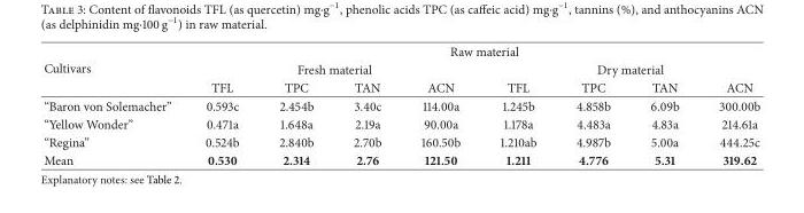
<table><thead><tr><td rowspan="3">Cultivars</td><td colspan="8">Raw material</td></tr><tr><td colspan="4">Fresh material</td><td colspan="4">Dry material</td></tr><tr><td>TFL</td><td>TPC</td><td>TAN</td><td>ACN</td><td>TFL</td><td>TPC</td><td>TAN</td><td>ACN</td></tr></thead><tbody><tr><td>“Baron von Solemacher”</td><td>0.593c</td><td>2.454b</td><td>3.40c</td><td>114.00a</td><td>1.245b</td><td>4.858b</td><td>6.09b</td><td>300.00b</td></tr><tr><td>“Yellow Wonder”</td><td>0.471a</td><td>1.648a</td><td>2.19a</td><td>90.00a</td><td>1.178a</td><td>4.483a</td><td>4.83a</td><td>214.61a</td></tr><tr><td>“Regina”</td><td>0.524b</td><td>2.840b</td><td>2.70b</td><td>160.50b</td><td>1.210ab</td><td>4.987b</td><td>5.00a</td><td>444.25c</td></tr><tr><td>Mean</td><td>0.530</td><td>2.314</td><td>2.76</td><td>121.50</td><td>1.211</td><td>4.776</td><td>5.31</td><td>319.62</td></tr></tbody></table>